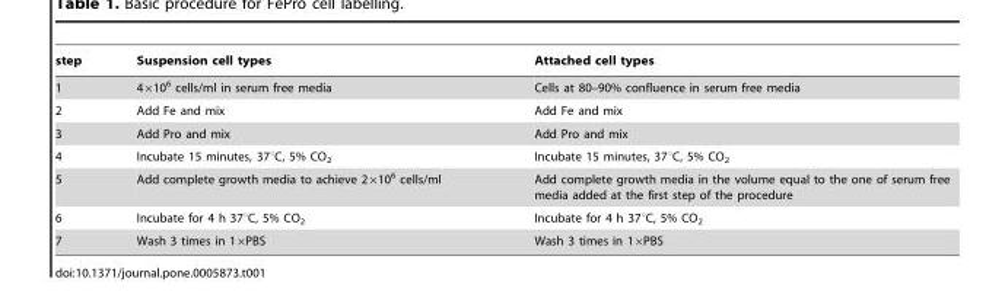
<table><thead><tr><td>step</td><td>Suspension cell types</td><td>Attached cell types</td></tr></thead><tbody><tr><td>1</td><td>4×10<sup>6</sup> cells/ml in serum free media</td><td>Cells at 80–90% confluence in serum free media</td></tr><tr><td>2</td><td>Add Fe and mix</td><td>Add Fe and mix</td></tr><tr><td>3</td><td>Add Pro and mix</td><td>Add Pro and mix</td></tr><tr><td>4</td><td>Incubate 15 minutes, 37°C, 5% CO<sub>2</sub></td><td>Incubate 15 minutes, 37°C, 5% CO<sub>2</sub></td></tr><tr><td>5</td><td>Add complete growth media to achieve 2×10<sup>6</sup> cells/ml</td><td>Add complete growth media in the volume equal to the one of serum free media added at the first step of the procedure</td></tr><tr><td>6</td><td>Incubate for 4 h 37°C, 5% CO<sub>2</sub></td><td>Incubate for 4 h 37°C, 5% CO<sub>2</sub></td></tr><tr><td>7</td><td>Wash 3 times in 1×PBS</td><td>Wash 3 times in 1×PBS</td></tr></tbody></table>